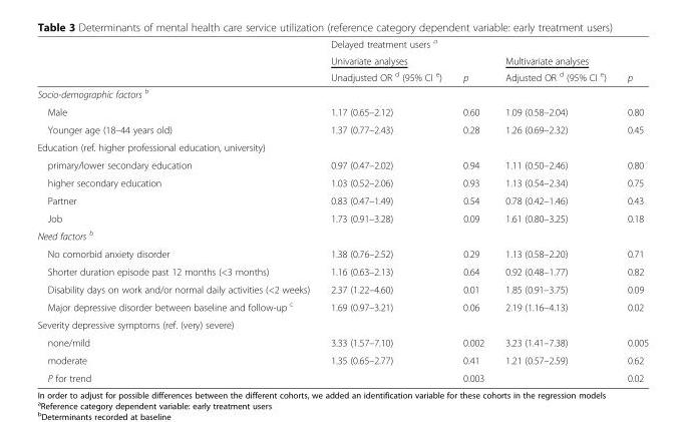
<table><thead><tr><td rowspan="3"></td><td rowspan="3">Delayed treatment users <sup>a</sup> Univariate analyses Unadjusted OR <sup>d</sup> (95% CI <sup>e</sup>)</td><td rowspan="3">p</td><td rowspan="3">Multivariate analyses Adjusted OR <sup>d</sup> (95% CI <sup>e</sup>)</td><td rowspan="3">p</td></tr><tr></tr><tr></tr></thead><tbody><tr><td colspan="5">Socio-demographic factors <sup>b</sup></td></tr><tr><td>Male</td><td>1.17 (0.65–2.12)</td><td>0.60</td><td>1.09 (0.58–2.04)</td><td>0.80</td></tr><tr><td>Younger age (18–44 years old)</td><td>1.37 (0.77–2.43)</td><td>0.28</td><td>1.26 (0.69–2.32)</td><td>0.45</td></tr><tr><td colspan="5">Education (ref. higher professional education, university)</td></tr><tr><td>primary/lower secondary education</td><td>0.97 (0.47–2.02)</td><td>0.94</td><td>1.11 (0.50–2.46)</td><td>0.80</td></tr><tr><td>higher secondary education</td><td>1.03 (0.52–2.06)</td><td>0.93</td><td>1.13 (0.54–2.34)</td><td>0.75</td></tr><tr><td>Partner</td><td>0.83 (0.47–1.49)</td><td>0.54</td><td>0.78 (0.42–1.46)</td><td>0.43</td></tr><tr><td>Job</td><td>1.73 (0.91–3.28)</td><td>0.09</td><td>1.61 (0.80–3.25)</td><td>0.18</td></tr><tr><td colspan="5">Need factors <sup>b</sup></td></tr><tr><td>No comorbid anxiety disorder</td><td>1.38 (0.76–2.52)</td><td>0.29</td><td>1.13 (0.58–2.20)</td><td>0.71</td></tr><tr><td>Shorter duration episode past 12 months (&lt;3 months)</td><td>1.16 (0.63–2.13)</td><td>0.64</td><td>0.92 (0.48–1.77)</td><td>0.82</td></tr><tr><td>Disability days on work and/or normal daily activities (&lt;2 weeks)</td><td>2.37 (1.22–4.60)</td><td>0.01</td><td>1.85 (0.91–3.75)</td><td>0.09</td></tr><tr><td>Major depressive disorder between baseline and follow-up <sup>c</sup></td><td>1.69 (0.97–3.21)</td><td>0.06</td><td>2.19 (1.16–4.13)</td><td>0.02</td></tr><tr><td colspan="5">Severity depressive symptoms (ref. (very) severe)</td></tr><tr><td>none/mild</td><td>3.33 (1.57–7.10)</td><td>0.002</td><td>3.23 (1.41–7.38)</td><td>0.005</td></tr><tr><td>moderate</td><td>1.35 (0.65–2.77)</td><td>0.41</td><td>1.21 (0.57–2.59)</td><td>0.62</td></tr><tr><td>P for trend</td><td></td><td>0.003</td><td></td><td>0.02</td></tr></tbody></table>